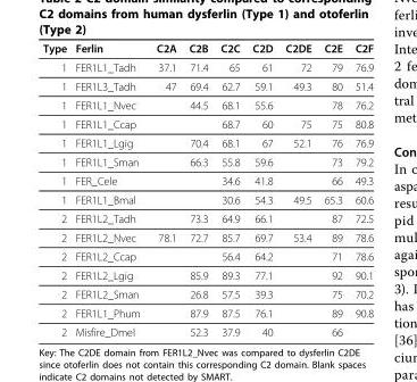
<table><thead><tr><td>Type</td><td>Ferlin</td><td>C2A</td><td>C2B</td><td>C2C</td><td>C2D</td><td>C2DE</td><td>C2E</td><td>C2F</td></tr></thead><tbody><tr><td>1</td><td>FER1L1_Tadh</td><td>37.1</td><td>71.4</td><td>65</td><td>61</td><td>72</td><td>79</td><td>76.9</td></tr><tr><td>1</td><td>FER1L3_Tadh</td><td>47</td><td>69.4</td><td>62.7</td><td>59.1</td><td>49.3</td><td>80</td><td>51.4</td></tr><tr><td>1</td><td>FER1L1_Nvec</td><td></td><td>44.5</td><td>68.1</td><td>55.6</td><td></td><td>78</td><td>76.2</td></tr><tr><td>1</td><td>FER1L1_Ccap</td><td></td><td></td><td>68.7</td><td>60</td><td>75</td><td>75</td><td>80.8</td></tr><tr><td>1</td><td>FER1L1_Lgig</td><td></td><td>70.4</td><td>68.1</td><td>67</td><td>52.1</td><td>76</td><td>76.9</td></tr><tr><td>1</td><td>FER1L1_Sman</td><td></td><td>66.3</td><td>55.8</td><td>59.6</td><td></td><td>73</td><td>79.2</td></tr><tr><td>1</td><td>FER_Cele</td><td></td><td></td><td>34.6</td><td>41.8</td><td></td><td>66</td><td>49.3</td></tr><tr><td>1</td><td>FER1L1_Bmal</td><td></td><td></td><td>30.6</td><td>54.3</td><td>49.5</td><td>65.3</td><td>60.6</td></tr><tr><td>2</td><td>FER1L2_Tadh</td><td></td><td>73.3</td><td>64.9</td><td>66.1</td><td></td><td>87</td><td>72.5</td></tr><tr><td>2</td><td>FER1L2_Nvec</td><td>78.1</td><td>72.7</td><td>85.7</td><td>69.7</td><td>53.4</td><td>89</td><td>78.6</td></tr><tr><td>2</td><td>FER1L2_Ccap</td><td></td><td></td><td>56.4</td><td>64.2</td><td></td><td>71</td><td>78.6</td></tr><tr><td>2</td><td>FER1L2_Lgig</td><td></td><td>85.9</td><td>89.3</td><td>77.1</td><td></td><td>92</td><td>90.1</td></tr><tr><td>2</td><td>FER1L2_Sman</td><td></td><td>26.8</td><td>57.5</td><td>39.3</td><td></td><td>75</td><td>70.2</td></tr><tr><td>2</td><td>FER1L1_Phum</td><td></td><td>87.9</td><td>87.5</td><td>76.1</td><td></td><td>89</td><td>90.8</td></tr><tr><td>2</td><td>Misfire_Dmel</td><td></td><td>52.3</td><td>37.9</td><td>40</td><td></td><td>66</td><td></td></tr></tbody></table>